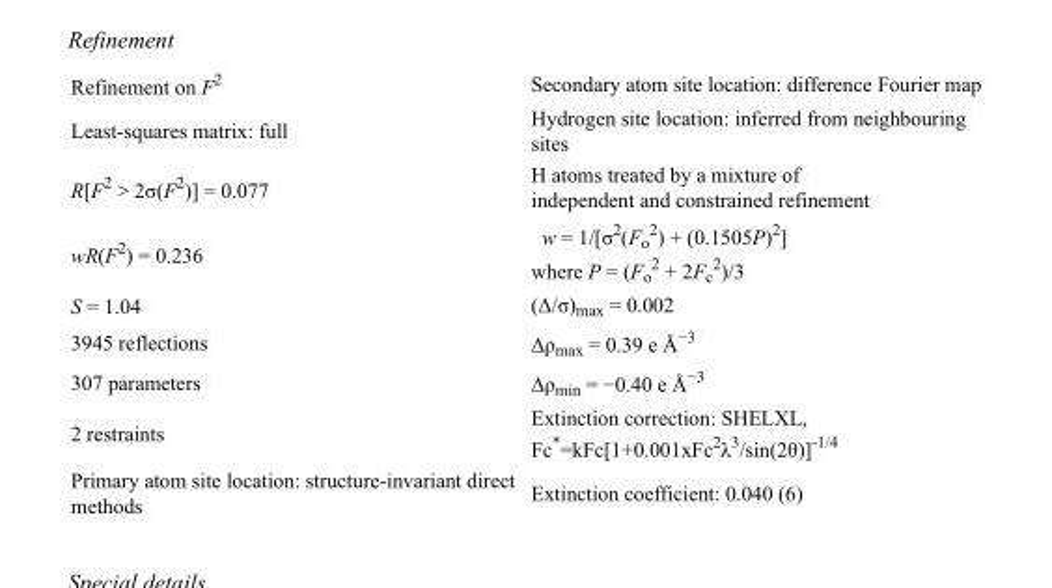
<table><tbody><tr><td>Refinement on F<sup>2</sup></td><td>Secondary atom site location: difference Fourier map</td></tr><tr><td>Least-squares matrix: full</td><td>Hydrogen site location: inferred from neighbouring sites</td></tr><tr><td>R[F<sup>2</sup> &gt; 2σ(F<sup>2</sup>)] = 0.077</td><td>H atoms treated by a mixture of independent and constrained refinement</td></tr><tr><td>wR(F<sup>2</sup>) = 0.236</td><td>w = 1/[σ<sup>2</sup>(F<sub>o</sub> <sup>2</sup>) + (0.1505P)<sup>2</sup>] where P = (F<sub>o</sub> <sup>2</sup> + 2F<sub>c</sub> <sup>2</sup>)/3</td></tr><tr><td>S = 1.04</td><td>(Δ/σ)<sub>max</sub> = 0.002</td></tr><tr><td>3945 reflections</td><td>Δρ<sub>max</sub> = 0.39 e Å<sup>−3</sup></td></tr><tr><td>307 parameters</td><td>Δρ<sub>min</sub> = −0.40 e Å<sup>−3</sup></td></tr><tr><td>2 restraints</td><td>Extinction correction: SHELXL, Fc*=kFc[1+0.001xFc<sup>2</sup>λ<sup>3</sup>/sin(2θ)]<sup>-1/4</sup></td></tr><tr><td>Primary atom site location: structure-invariant direct methods</td><td>Extinction coefficient: 0.040 (6)</td></tr></tbody></table>